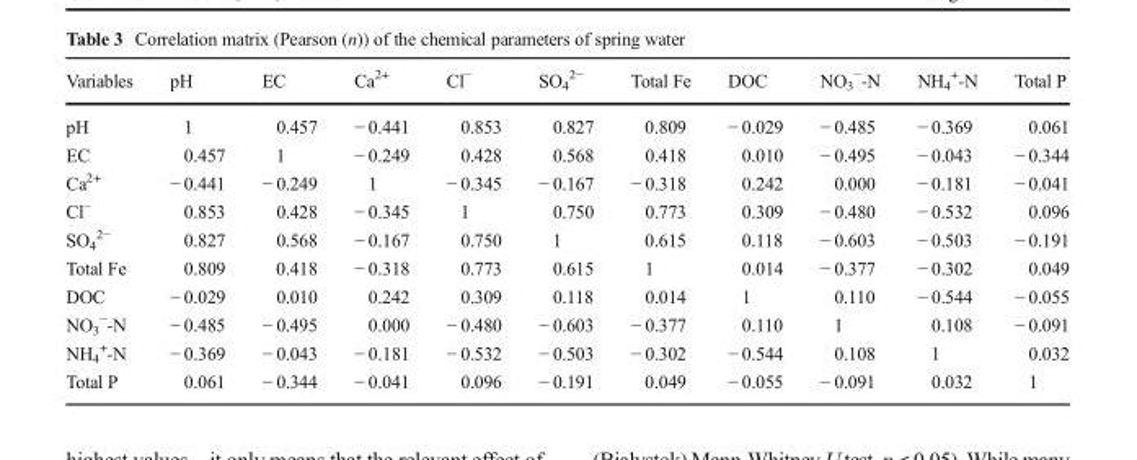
<table><thead><tr><td>Variables</td><td>pH</td><td>EC</td><td>Ca<sup>2+</sup></td><td>Cl<sup>−</sup></td><td>SO<sub>4</sub> <sup>2−</sup></td><td>Total Fe</td><td>DOC</td><td>NO<sub>3</sub> <sup>−</sup>-N</td><td>NH<sub>4</sub> <sup>+</sup>-N</td><td>Total P</td></tr></thead><tbody><tr><td>pH</td><td>1</td><td>0.457</td><td>− 0.441</td><td>0.853</td><td>0.827</td><td>0.809</td><td>− 0.029</td><td>− 0.485</td><td>− 0.369</td><td>0.061</td></tr><tr><td>EC</td><td>0.457</td><td>1</td><td>− 0.249</td><td>0.428</td><td>0.568</td><td>0.418</td><td>0.010</td><td>− 0.495</td><td>− 0.043</td><td>− 0.344</td></tr><tr><td>Ca<sup>2+</sup></td><td>− 0.441</td><td>− 0.249</td><td>1</td><td>− 0.345</td><td>− 0.167</td><td>− 0.318</td><td>0.242</td><td>0.000</td><td>− 0.181</td><td>− 0.041</td></tr><tr><td>Cl<sup>−</sup></td><td>0.853</td><td>0.428</td><td>− 0.345</td><td>1</td><td>0.750</td><td>0.773</td><td>0.309</td><td>− 0.480</td><td>− 0.532</td><td>0.096</td></tr><tr><td>SO<sub>4</sub> <sup>2−</sup></td><td>0.827</td><td>0.568</td><td>− 0.167</td><td>0.750</td><td>1</td><td>0.615</td><td>0.118</td><td>− 0.603</td><td>− 0.503</td><td>− 0.191</td></tr><tr><td>Total Fe</td><td>0.809</td><td>0.418</td><td>− 0.318</td><td>0.773</td><td>0.615</td><td>1</td><td>0.014</td><td>− 0.377</td><td>− 0.302</td><td>0.049</td></tr><tr><td>DOC</td><td>− 0.029</td><td>0.010</td><td>0.242</td><td>0.309</td><td>0.118</td><td>0.014</td><td>1</td><td>0.110</td><td>− 0.544</td><td>− 0.055</td></tr><tr><td>NO<sub>3</sub> <sup>−</sup>-N</td><td>− 0.485</td><td>− 0.495</td><td>0.000</td><td>− 0.480</td><td>− 0.603</td><td>− 0.377</td><td>0.110</td><td>1</td><td>0.108</td><td>− 0.091</td></tr><tr><td>NH<sub>4</sub> <sup>+</sup>-N</td><td>− 0.369</td><td>− 0.043</td><td>− 0.181</td><td>− 0.532</td><td>− 0.503</td><td>− 0.302</td><td>− 0.544</td><td>0.108</td><td>1</td><td>0.032</td></tr><tr><td>Total P</td><td>0.061</td><td>− 0.344</td><td>− 0.041</td><td>0.096</td><td>− 0.191</td><td>0.049</td><td>− 0.055</td><td>− 0.091</td><td>0.032</td><td>1</td></tr></tbody></table>